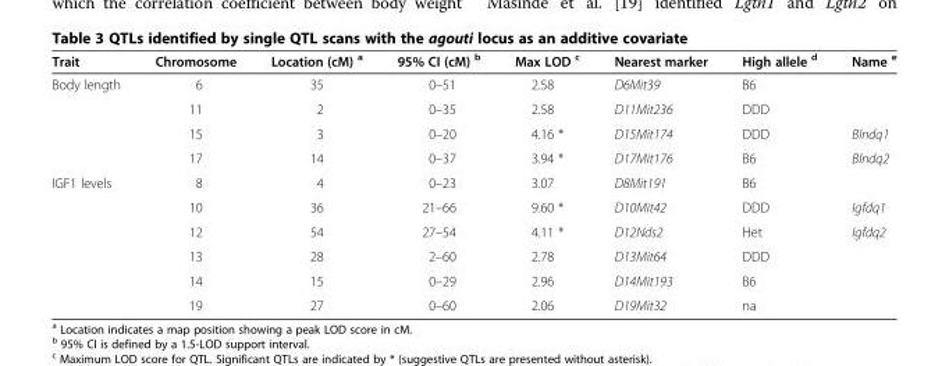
<table><thead><tr><td>Trait</td><td>Chromosome</td><td>Location (cM) <sup>a</sup></td><td>95% CI (cM) <sup>b</sup></td><td>Max LOD <sup>c</sup></td><td>Nearest marker</td><td>High allele <sup>d</sup></td><td>Name <sup>e</sup></td></tr></thead><tbody><tr><td rowspan="4">Body length</td><td>6</td><td>35</td><td>0–51</td><td>2.58</td><td>D6Mit39</td><td>B6</td><td></td></tr><tr><td>11</td><td>2</td><td>0–35</td><td>2.58</td><td>D11Mit236</td><td>DDD</td><td></td></tr><tr><td>15</td><td>3</td><td>0–20</td><td>4.16 *</td><td>D15Mit174</td><td>DDD</td><td>Blndq1</td></tr><tr><td>17</td><td>14</td><td>0–37</td><td>3.94 *</td><td>D17Mit176</td><td>B6</td><td>Blndq2</td></tr><tr><td rowspan="6">IGF1 levels</td><td>8</td><td>4</td><td>0–23</td><td>3.07</td><td>D8Mit191</td><td>B6</td><td></td></tr><tr><td>10</td><td>36</td><td>21–66</td><td>9.60 *</td><td>D10Mit42</td><td>DDD</td><td>Igfdq1</td></tr><tr><td>12</td><td>54</td><td>27–54</td><td>4.11 *</td><td>D12Nds2</td><td>Het</td><td>Igfdq2</td></tr><tr><td>13</td><td>28</td><td>2–60</td><td>2.78</td><td>D13Mit64</td><td>DDD</td><td></td></tr><tr><td>14</td><td>15</td><td>0–29</td><td>2.96</td><td>D14Mit193</td><td>B6</td><td></td></tr><tr><td>19</td><td>27</td><td>0–60</td><td>2.06</td><td>D19Mit32</td><td>na</td><td></td></tr></tbody></table>